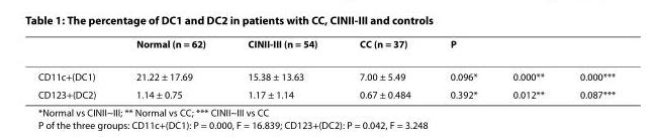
<table><thead><tr><td rowspan="2">CD11c+(DC1)</td><td rowspan="2">Normal (n = 62) 21.22 ± 17.69</td><td rowspan="2">CINII-III (n = 54) 15.38 ± 13.63</td><td rowspan="2">CC (n = 37) 7.00 ± 5.49</td><td colspan="3">P</td></tr><tr><td>0.096*</td><td>0.000**</td><td>0.000***</td></tr></thead><tbody><tr><td>CD123+(DC2)</td><td>1.14 ± 0.75</td><td>1.17 ± 1.14</td><td>0.67 ± 0.484</td><td>0.392*</td><td>0.012**</td><td>0.087***</td></tr></tbody></table>